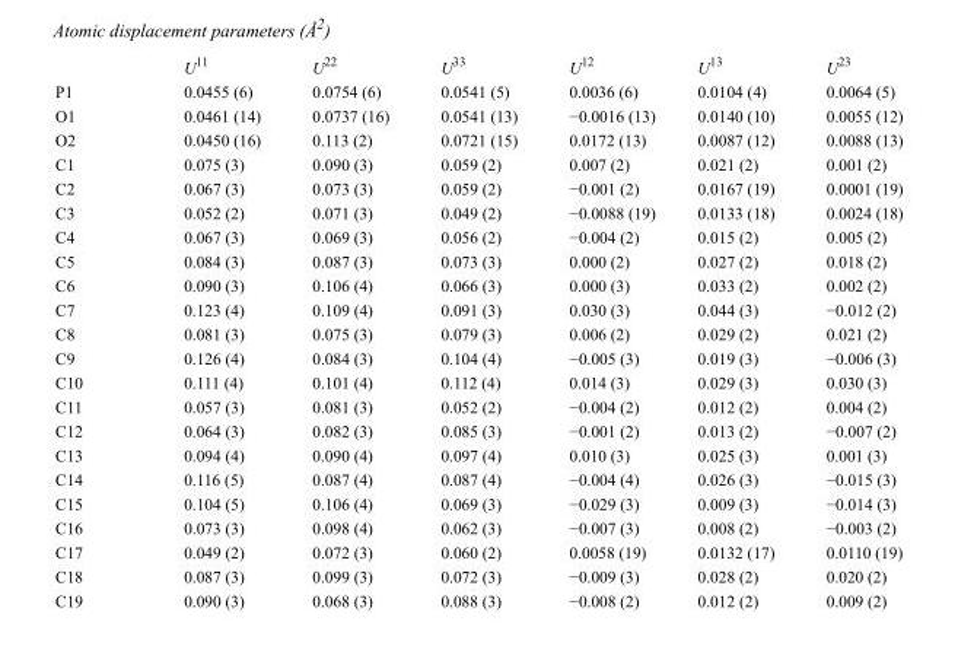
<table><thead><tr><td></td><td>U<sup>11</sup></td><td>U<sup>22</sup></td><td>U<sup>33</sup></td><td>U<sup>12</sup></td><td>U<sup>13</sup></td><td>U<sup>23</sup></td></tr></thead><tbody><tr><td>P1</td><td>0.0455 (6)</td><td>0.0754 (6)</td><td>0.0541 (5)</td><td>0.0036 (6)</td><td>0.0104 (4)</td><td>0.0064 (5)</td></tr><tr><td>O1</td><td>0.0461 (14)</td><td>0.0737 (16)</td><td>0.0541 (13)</td><td>−0.0016 (13)</td><td>0.0140 (10)</td><td>0.0055 (12)</td></tr><tr><td>O2</td><td>0.0450 (16)</td><td>0.113 (2)</td><td>0.0721 (15)</td><td>0.0172 (13)</td><td>0.0087 (12)</td><td>0.0088 (13)</td></tr><tr><td>C1</td><td>0.075 (3)</td><td>0.090 (3)</td><td>0.059 (2)</td><td>0.007 (2)</td><td>0.021 (2)</td><td>0.001 (2)</td></tr><tr><td>C2</td><td>0.067 (3)</td><td>0.073 (3)</td><td>0.059 (2)</td><td>−0.001 (2)</td><td>0.0167 (19)</td><td>0.0001 (19)</td></tr><tr><td>C3</td><td>0.052 (2)</td><td>0.071 (3)</td><td>0.049 (2)</td><td>−0.0088 (19)</td><td>0.0133 (18)</td><td>0.0024 (18)</td></tr><tr><td>C4</td><td>0.067 (3)</td><td>0.069 (3)</td><td>0.056 (2)</td><td>−0.004 (2)</td><td>0.015 (2)</td><td>0.005 (2)</td></tr><tr><td>C5</td><td>0.084 (3)</td><td>0.087 (3)</td><td>0.073 (3)</td><td>0.000 (2)</td><td>0.027 (2)</td><td>0.018 (2)</td></tr><tr><td>C6</td><td>0.090 (3)</td><td>0.106 (4)</td><td>0.066 (3)</td><td>0.000 (3)</td><td>0.033 (2)</td><td>0.002 (2)</td></tr><tr><td>C7</td><td>0.123 (4)</td><td>0.109 (4)</td><td>0.091 (3)</td><td>0.030 (3)</td><td>0.044 (3)</td><td>−0.012 (2)</td></tr><tr><td>C8</td><td>0.081 (3)</td><td>0.075 (3)</td><td>0.079 (3)</td><td>0.006 (2)</td><td>0.029 (2)</td><td>0.021 (2)</td></tr><tr><td>C9</td><td>0.126 (4)</td><td>0.084 (3)</td><td>0.104 (4)</td><td>−0.005 (3)</td><td>0.019 (3)</td><td>−0.006 (3)</td></tr><tr><td>C10</td><td>0.111 (4)</td><td>0.101 (4)</td><td>0.112 (4)</td><td>0.014 (3)</td><td>0.029 (3)</td><td>0.030 (3)</td></tr><tr><td>C11</td><td>0.057 (3)</td><td>0.081 (3)</td><td>0.052 (2)</td><td>−0.004 (2)</td><td>0.012 (2)</td><td>0.004 (2)</td></tr><tr><td>C12</td><td>0.064 (3)</td><td>0.082 (3)</td><td>0.085 (3)</td><td>−0.001 (2)</td><td>0.013 (2)</td><td>−0.007 (2)</td></tr><tr><td>C13</td><td>0.094 (4)</td><td>0.090 (4)</td><td>0.097 (4)</td><td>0.010 (3)</td><td>0.025 (3)</td><td>0.001 (3)</td></tr><tr><td>C14</td><td>0.116 (5)</td><td>0.087 (4)</td><td>0.087 (4)</td><td>−0.004 (4)</td><td>0.026 (3)</td><td>−0.015 (3)</td></tr><tr><td>C15</td><td>0.104 (5)</td><td>0.106 (4)</td><td>0.069 (3)</td><td>−0.029 (3)</td><td>0.009 (3)</td><td>−0.014 (3)</td></tr><tr><td>C16</td><td>0.073 (3)</td><td>0.098 (4)</td><td>0.062 (3)</td><td>−0.007 (3)</td><td>0.008 (2)</td><td>−0.003 (2)</td></tr><tr><td>C17</td><td>0.049 (2)</td><td>0.072 (3)</td><td>0.060 (2)</td><td>0.0058 (19)</td><td>0.0132 (17)</td><td>0.0110 (19)</td></tr><tr><td>C18</td><td>0.087 (3)</td><td>0.099 (3)</td><td>0.072 (3)</td><td>−0.009 (3)</td><td>0.028 (2)</td><td>0.020 (2)</td></tr><tr><td>C19</td><td>0.090 (3)</td><td>0.068 (3)</td><td>0.088 (3)</td><td>−0.008 (2)</td><td>0.012 (2)</td><td>0.009 (2)</td></tr></tbody></table>